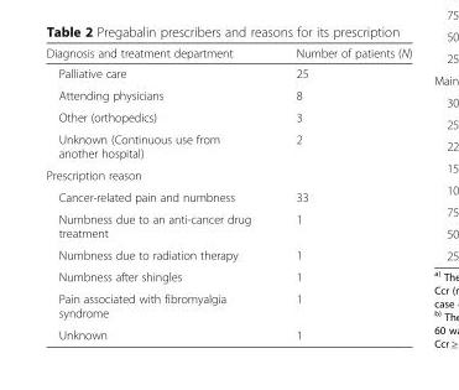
<table><thead><tr><td>Diagnosis and treatment department</td><td>Number of patients (N)</td></tr></thead><tbody><tr><td>Palliative care</td><td>25</td></tr><tr><td>Attending physicians</td><td>8</td></tr><tr><td>Other (orthopedics)</td><td>3</td></tr><tr><td>Unknown (Continuous use from another hospital)</td><td>2</td></tr><tr><td colspan="2">Prescription reason</td></tr><tr><td>Cancer-related pain and numbness</td><td>33</td></tr><tr><td>Numbness due to an anti-cancer drug treatment</td><td>1</td></tr><tr><td>Numbness due to radiation therapy</td><td>1</td></tr><tr><td>Numbness after shingles</td><td>1</td></tr><tr><td>Pain associated with fibromyalgia syndrome</td><td>1</td></tr><tr><td>Unknown</td><td>1</td></tr></tbody></table>